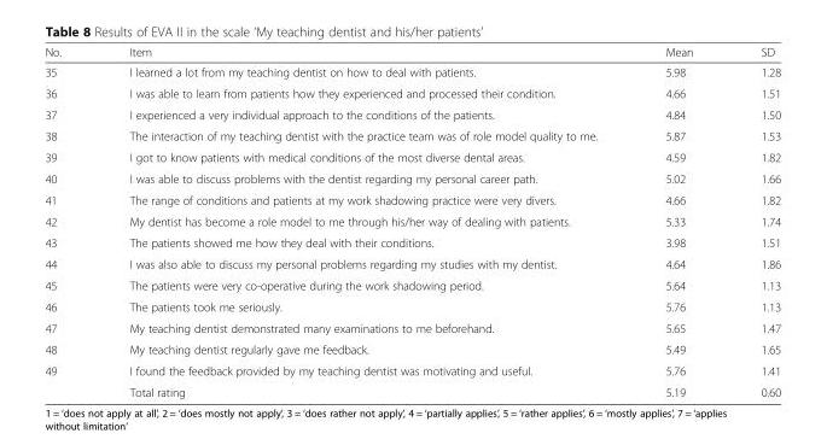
<table><thead><tr><td>No.</td><td>Item</td><td>Mean</td><td>SD</td></tr></thead><tbody><tr><td>35</td><td>I learned a lot from my teaching dentist on how to deal with patients.</td><td>5.98</td><td>1.28</td></tr><tr><td>36</td><td>I was able to learn from patients how they experienced and processed their condition.</td><td>4.66</td><td>1.51</td></tr><tr><td>37</td><td>I experienced a very individual approach to the conditions of the patients.</td><td>4.84</td><td>1.50</td></tr><tr><td>38</td><td>The interaction of my teaching dentist with the practice team was of role model quality to me.</td><td>5.87</td><td>1.53</td></tr><tr><td>39</td><td>I got to know patients with medical conditions of the most diverse dental areas.</td><td>4.59</td><td>1.82</td></tr><tr><td>40</td><td>I was able to discuss problems with the dentist regarding my personal career path.</td><td>5.02</td><td>1.66</td></tr><tr><td>41</td><td>The range of conditions and patients at my work shadowing practice were very divers.</td><td>4.66</td><td>1.82</td></tr><tr><td>42</td><td>My dentist has become a role model to me through his/her way of dealing with patients.</td><td>5.33</td><td>1.74</td></tr><tr><td>43</td><td>The patients showed me how they deal with their conditions.</td><td>3.98</td><td>1.51</td></tr><tr><td>44</td><td>I was also able to discuss my personal problems regarding my studies with my dentist.</td><td>4.64</td><td>1.86</td></tr><tr><td>45</td><td>The patients were very co-operative during the work shadowing period.</td><td>5.64</td><td>1.13</td></tr><tr><td>46</td><td>The patients took me seriously.</td><td>5.76</td><td>1.13</td></tr><tr><td>47</td><td>My teaching dentist demonstrated many examinations to me beforehand.</td><td>5.65</td><td>1.47</td></tr><tr><td>48</td><td>My teaching dentist regularly gave me feedback.</td><td>5.49</td><td>1.65</td></tr><tr><td rowspan="2">49</td><td>I found the feedback provided by my teaching dentist was motivating and useful.</td><td>5.76</td><td>1.41</td></tr><tr><td>Total rating</td><td>5.19</td><td>0.60</td></tr></tbody></table>